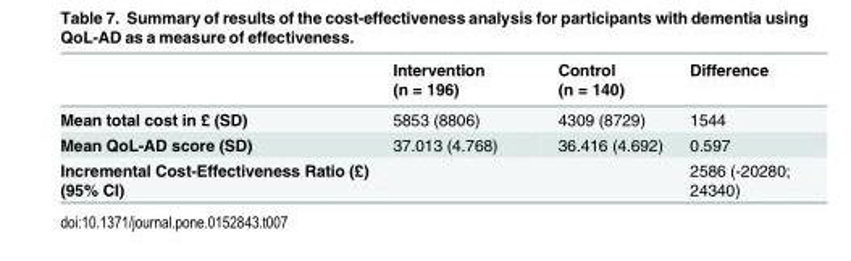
<table><thead><tr><td></td><td>Intervention (n = 196)</td><td>Control (n = 140)</td><td>Difference</td></tr></thead><tbody><tr><td>Mean total cost in £ (SD)</td><td>5853 (8806)</td><td>4309 (8729)</td><td>1544</td></tr><tr><td>Mean QoL-AD score (SD)</td><td>37.013 (4.768)</td><td>36.416 (4.692)</td><td>0.597</td></tr><tr><td>Incremental Cost-Effectiveness Ratio (£) (95% CI)</td><td></td><td></td><td>2586 (-20280; 24340)</td></tr></tbody></table>